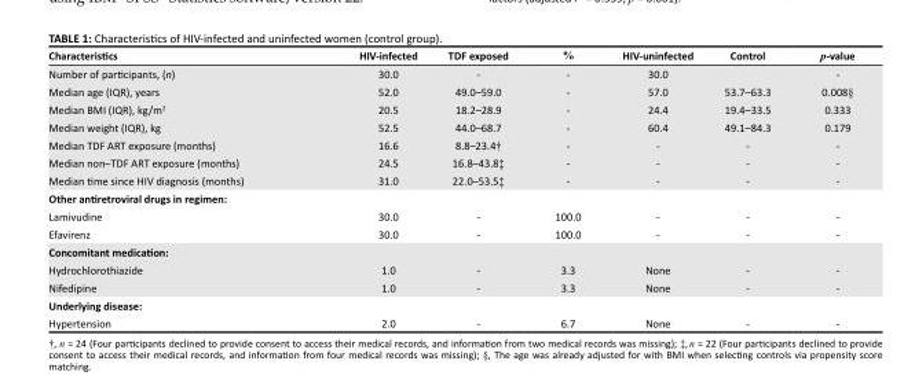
<table><thead><tr><td>Characteristics</td><td>HIV-infected</td><td>TDF exposed</td><td>%</td><td>HIV-uninfected</td><td>Control</td><td>p-value</td></tr></thead><tbody><tr><td>Number of participants, (n)</td><td>30.0</td><td>-</td><td>-</td><td>30.0</td><td></td><td>-</td></tr><tr><td>Median age (IQR), years</td><td>52.0</td><td>49.0–59.0</td><td>-</td><td>57.0</td><td>53.7–63.3</td><td>0.008§</td></tr><tr><td>Median BMI (IQR), kg/m<sup>2</sup></td><td>20.5</td><td>18.2–28.9</td><td>-</td><td>24.4</td><td>19.4–33.5</td><td>0.333</td></tr><tr><td>Median weight (IQR), kg</td><td>52.5</td><td>44.0–68.7</td><td>-</td><td>60.4</td><td>49.1–84.3</td><td>0.179</td></tr><tr><td>Median TDF ART exposure (months)</td><td>16.6</td><td>8.8–23.4†</td><td>-</td><td>-</td><td>-</td><td>-</td></tr><tr><td>Median non–TDF ART exposure (months)</td><td>24.5</td><td>16.8–43.8‡</td><td>-</td><td>-</td><td>-</td><td>-</td></tr><tr><td>Median time since HIV diagnosis (months)</td><td>31.0</td><td>22.0–53.5‡</td><td>-</td><td>-</td><td>-</td><td>-</td></tr><tr><td colspan="7">Other antiretroviral drugs in regimen:</td></tr><tr><td>Lamivudine</td><td>30.0</td><td>-</td><td>100.0</td><td>-</td><td>-</td><td>-</td></tr><tr><td>Efavirenz</td><td>30.0</td><td>-</td><td>100.0</td><td>-</td><td>-</td><td>-</td></tr><tr><td colspan="7">Concomitant medication:</td></tr><tr><td>Hydrochlorothiazide</td><td>1.0</td><td>-</td><td>3.3</td><td>None</td><td>-</td><td>-</td></tr><tr><td>Nifedipine</td><td>1.0</td><td>-</td><td>3.3</td><td>None</td><td>-</td><td>-</td></tr><tr><td colspan="7">Underlying disease:</td></tr><tr><td>Hypertension</td><td>2.0</td><td>-</td><td>6.7</td><td>None</td><td>-</td><td>-</td></tr></tbody></table>